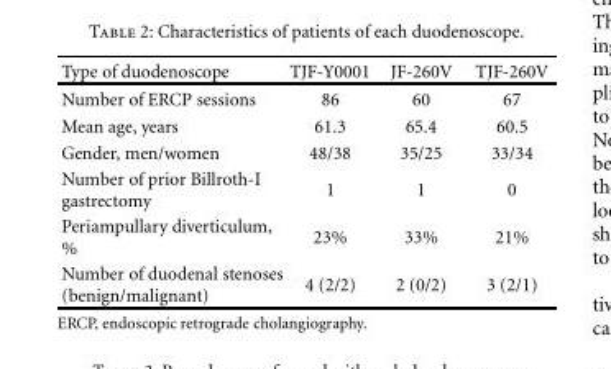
<table><thead><tr><td>Type of duodenoscope</td><td>TJF-Y0001</td><td>JF-260V</td><td>TJF-260V</td></tr></thead><tbody><tr><td>Number of ERCP sessions</td><td>86</td><td>60</td><td>67</td></tr><tr><td>Mean age, years</td><td>61.3</td><td>65.4</td><td>60.5</td></tr><tr><td>Gender, men/women</td><td>48/38</td><td>35/25</td><td>33/34</td></tr><tr><td>Number of prior Billroth-I gastrectomy</td><td>1</td><td>1</td><td>0</td></tr><tr><td>Periampullary diverticulum, %</td><td>23%</td><td>33%</td><td>21%</td></tr><tr><td>Number of duodenal stenoses (benign/malignant)</td><td>4 (2/2)</td><td>2 (0/2)</td><td>3 (2/1)</td></tr></tbody></table>